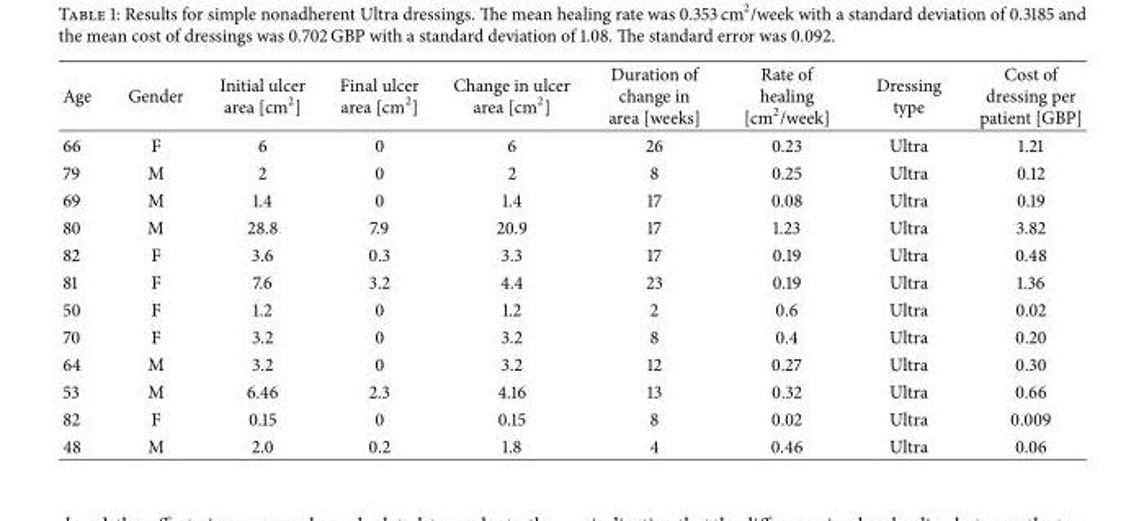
<table><thead><tr><td>Age</td><td>Gender</td><td>Initial ulcer area [cm<sup>2</sup>]</td><td>Final ulcer area [cm<sup>2</sup>]</td><td>Change in ulcer area [cm<sup>2</sup>]</td><td>Duration of change in area [weeks]</td><td>Rate of healing [cm<sup>2</sup>/week]</td><td>Dressing type</td><td>Cost of dressing per patient [GBP]</td></tr></thead><tbody><tr><td>66</td><td>F</td><td>6</td><td>0</td><td>6</td><td>26</td><td>0.23</td><td>Ultra</td><td>1.21</td></tr><tr><td>79</td><td>M</td><td>2</td><td>0</td><td>2</td><td>8</td><td>0.25</td><td>Ultra</td><td>0.12</td></tr><tr><td>69</td><td>M</td><td>1.4</td><td>0</td><td>1.4</td><td>17</td><td>0.08</td><td>Ultra</td><td>0.19</td></tr><tr><td>80</td><td>M</td><td>28.8</td><td>7.9</td><td>20.9</td><td>17</td><td>1.23</td><td>Ultra</td><td>3.82</td></tr><tr><td>82</td><td>F</td><td>3.6</td><td>0.3</td><td>3.3</td><td>17</td><td>0.19</td><td>Ultra</td><td>0.48</td></tr><tr><td>81</td><td>F</td><td>7.6</td><td>3.2</td><td>4.4</td><td>23</td><td>0.19</td><td>Ultra</td><td>1.36</td></tr><tr><td>50</td><td>F</td><td>1.2</td><td>0</td><td>1.2</td><td>2</td><td>0.6</td><td>Ultra</td><td>0.02</td></tr><tr><td>70</td><td>F</td><td>3.2</td><td>0</td><td>3.2</td><td>8</td><td>0.4</td><td>Ultra</td><td>0.20</td></tr><tr><td>64</td><td>M</td><td>3.2</td><td>0</td><td>3.2</td><td>12</td><td>0.27</td><td>Ultra</td><td>0.30</td></tr><tr><td>53</td><td>M</td><td>6.46</td><td>2.3</td><td>4.16</td><td>13</td><td>0.32</td><td>Ultra</td><td>0.66</td></tr><tr><td>82</td><td>F</td><td>0.15</td><td>0</td><td>0.15</td><td>8</td><td>0.02</td><td>Ultra</td><td>0.009</td></tr><tr><td>48</td><td>M</td><td>2.0</td><td>0.2</td><td>1.8</td><td>4</td><td>0.46</td><td>Ultra</td><td>0.06</td></tr></tbody></table>